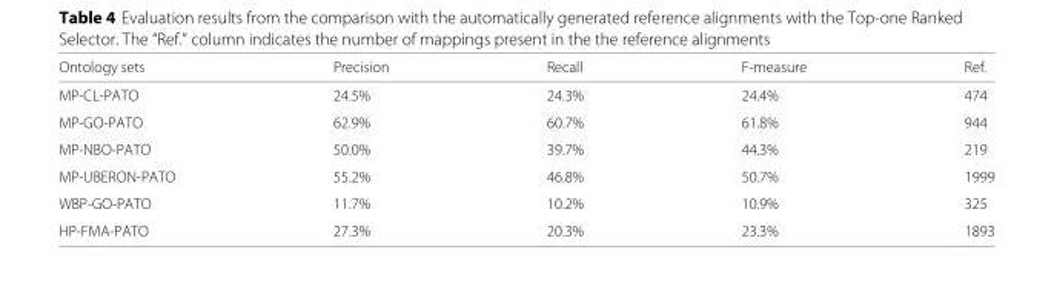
<table><thead><tr><td>Ontology sets</td><td>Precision</td><td>Recall</td><td>F-measure</td><td>Ref.</td></tr></thead><tbody><tr><td>MP-CL-PATO</td><td>24.5%</td><td>24.3%</td><td>24.4%</td><td>474</td></tr><tr><td>MP-GO-PATO</td><td>62.9%</td><td>60.7%</td><td>61.8%</td><td>944</td></tr><tr><td>MP-NBO-PATO</td><td>50.0%</td><td>39.7%</td><td>44.3%</td><td>219</td></tr><tr><td>MP-UBERON-PATO</td><td>55.2%</td><td>46.8%</td><td>50.7%</td><td>1999</td></tr><tr><td>WBP-GO-PATO</td><td>11.7%</td><td>10.2%</td><td>10.9%</td><td>325</td></tr><tr><td>HP-FMA-PATO</td><td>27.3%</td><td>20.3%</td><td>23.3%</td><td>1893</td></tr></tbody></table>